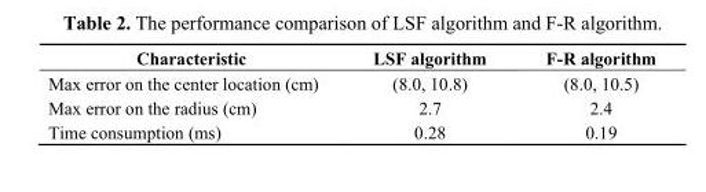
<table><thead><tr><td>Characteristic</td><td>LSF algorithm</td><td>F-R algorithm</td></tr></thead><tbody><tr><td>Max error on the center location (cm)</td><td>(8.0, 10.8)</td><td>(8.0, 10.5)</td></tr><tr><td>Max error on the radius (cm)</td><td>2.7</td><td>2.4</td></tr><tr><td>Time consumption (ms)</td><td>0.28</td><td>0.19</td></tr></tbody></table>